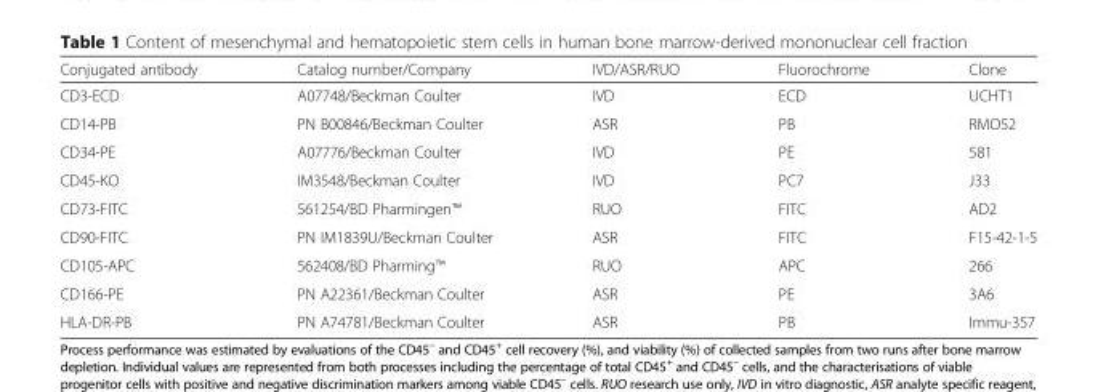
<table><thead><tr><td>Conjugated antibody</td><td>Catalog number/Company</td><td>IVD/ASR/RUO</td><td>Fluorochrome</td><td>Clone</td></tr></thead><tbody><tr><td>CD3-ECD</td><td>A07748/Beckman Coulter</td><td>IVD</td><td>ECD</td><td>UCHT1</td></tr><tr><td>CD14-PB</td><td>PN B00846/Beckman Coulter</td><td>ASR</td><td>PB</td><td>RMO52</td></tr><tr><td>CD34-PE</td><td>A07776/Beckman Coulter</td><td>IVD</td><td>PE</td><td>581</td></tr><tr><td>CD45-KO</td><td>IM3548/Beckman Coulter</td><td>IVD</td><td>PC7</td><td>J33</td></tr><tr><td>CD73-FITC</td><td>561254/BD Pharmingen™</td><td>RUO</td><td>FITC</td><td>AD2</td></tr><tr><td>CD90-FITC</td><td>PN IM1839U/Beckman Coulter</td><td>ASR</td><td>FITC</td><td>F15-42-1-5</td></tr><tr><td>CD105-APC</td><td>562408/BD Pharming™</td><td>RUO</td><td>APC</td><td>266</td></tr><tr><td>CD166-PE</td><td>PN A22361/Beckman Coulter</td><td>ASR</td><td>PE</td><td>3A6</td></tr><tr><td>HLA-DR-PB</td><td>PN A74781/Beckman Coulter</td><td>ASR</td><td>PB</td><td>Immu-357</td></tr></tbody></table>